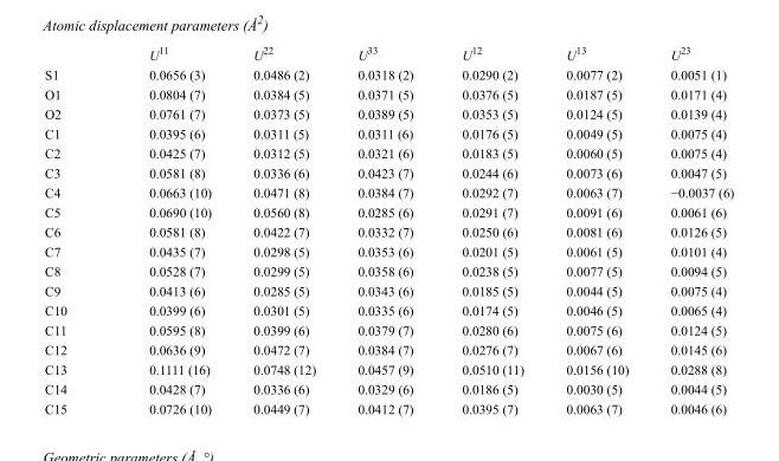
<table><thead><tr><td></td><td>U<sup>11</sup></td><td>U<sup>22</sup></td><td>U<sup>33</sup></td><td>U<sup>12</sup></td><td>U<sup>13</sup></td><td>U<sup>23</sup></td></tr></thead><tbody><tr><td>S1</td><td>0.0656 (3)</td><td>0.0486 (2)</td><td>0.0318 (2)</td><td>0.0290 (2)</td><td>0.0077 (2)</td><td>0.0051 (1)</td></tr><tr><td>O1</td><td>0.0804 (7)</td><td>0.0384 (5)</td><td>0.0371 (5)</td><td>0.0376 (5)</td><td>0.0187 (5)</td><td>0.0171 (4)</td></tr><tr><td>O2</td><td>0.0761 (7)</td><td>0.0373 (5)</td><td>0.0389 (5)</td><td>0.0353 (5)</td><td>0.0124 (5)</td><td>0.0139 (4)</td></tr><tr><td>C1</td><td>0.0395 (6)</td><td>0.0311 (5)</td><td>0.0311 (6)</td><td>0.0176 (5)</td><td>0.0049 (5)</td><td>0.0075 (4)</td></tr><tr><td>C2</td><td>0.0425 (7)</td><td>0.0312 (5)</td><td>0.0321 (6)</td><td>0.0183 (5)</td><td>0.0060 (5)</td><td>0.0075 (4)</td></tr><tr><td>C3</td><td>0.0581 (8)</td><td>0.0336 (6)</td><td>0.0423 (7)</td><td>0.0244 (6)</td><td>0.0073 (6)</td><td>0.0047 (5)</td></tr><tr><td>C4</td><td>0.0663 (10)</td><td>0.0471 (8)</td><td>0.0384 (7)</td><td>0.0292 (7)</td><td>0.0063 (7)</td><td>−0.0037 (6)</td></tr><tr><td>C5</td><td>0.0690 (10)</td><td>0.0560 (8)</td><td>0.0285 (6)</td><td>0.0291 (7)</td><td>0.0091 (6)</td><td>0.0061 (6)</td></tr><tr><td>C6</td><td>0.0581 (8)</td><td>0.0422 (7)</td><td>0.0332 (7)</td><td>0.0250 (6)</td><td>0.0081 (6)</td><td>0.0126 (5)</td></tr><tr><td>C7</td><td>0.0435 (7)</td><td>0.0298 (5)</td><td>0.0353 (6)</td><td>0.0201 (5)</td><td>0.0061 (5)</td><td>0.0101 (4)</td></tr><tr><td>C8</td><td>0.0528 (7)</td><td>0.0299 (5)</td><td>0.0358 (6)</td><td>0.0238 (5)</td><td>0.0077 (5)</td><td>0.0094 (5)</td></tr><tr><td>C9</td><td>0.0413 (6)</td><td>0.0285 (5)</td><td>0.0343 (6)</td><td>0.0185 (5)</td><td>0.0044 (5)</td><td>0.0075 (4)</td></tr><tr><td>C10</td><td>0.0399 (6)</td><td>0.0301 (5)</td><td>0.0335 (6)</td><td>0.0174 (5)</td><td>0.0046 (5)</td><td>0.0065 (4)</td></tr><tr><td>C11</td><td>0.0595 (8)</td><td>0.0399 (6)</td><td>0.0379 (7)</td><td>0.0280 (6)</td><td>0.0075 (6)</td><td>0.0124 (5)</td></tr><tr><td>C12</td><td>0.0636 (9)</td><td>0.0472 (7)</td><td>0.0384 (7)</td><td>0.0276 (7)</td><td>0.0067 (6)</td><td>0.0145 (6)</td></tr><tr><td>C13</td><td>0.1111 (16)</td><td>0.0748 (12)</td><td>0.0457 (9)</td><td>0.0510 (11)</td><td>0.0156 (10)</td><td>0.0288 (8)</td></tr><tr><td>C14</td><td>0.0428 (7)</td><td>0.0336 (6)</td><td>0.0329 (6)</td><td>0.0186 (5)</td><td>0.0030 (5)</td><td>0.0044 (5)</td></tr><tr><td>C15</td><td>0.0726 (10)</td><td>0.0449 (7)</td><td>0.0412 (7)</td><td>0.0395 (7)</td><td>0.0063 (7)</td><td>0.0046 (6)</td></tr></tbody></table>